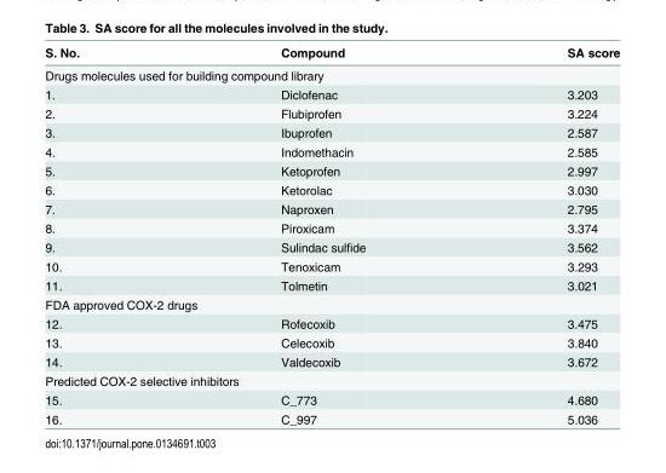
<table><thead><tr><td>S. No.</td><td>Compound</td><td>SA score</td></tr></thead><tbody><tr><td colspan="3">Drugs molecules used for building compound library</td></tr><tr><td>1.</td><td>Diclofenac</td><td>3.203</td></tr><tr><td>2.</td><td>Flubiprofen</td><td>3.224</td></tr><tr><td>3.</td><td>Ibuprofen</td><td>2.587</td></tr><tr><td>4.</td><td>Indomethacin</td><td>2.585</td></tr><tr><td>5.</td><td>Ketoprofen</td><td>2.997</td></tr><tr><td>6.</td><td>Ketorolac</td><td>3.030</td></tr><tr><td>7.</td><td>Naproxen</td><td>2.795</td></tr><tr><td>8.</td><td>Piroxicam</td><td>3.374</td></tr><tr><td>9.</td><td>Sulindac sulfide</td><td>3.562</td></tr><tr><td>10.</td><td>Tenoxicam</td><td>3.293</td></tr><tr><td>11.</td><td>Tolmetin</td><td>3.021</td></tr><tr><td colspan="3">FDA approved COX-2 drugs</td></tr><tr><td>12.</td><td>Rofecoxib</td><td>3.475</td></tr><tr><td>13.</td><td>Celecoxib</td><td>3.840</td></tr><tr><td>14.</td><td>Valdecoxib</td><td>3.672</td></tr><tr><td colspan="3">Predicted COX-2 selective inhibitors</td></tr><tr><td>15.</td><td>C_773</td><td>4.680</td></tr><tr><td>16.</td><td>C_997</td><td>5.036</td></tr></tbody></table>